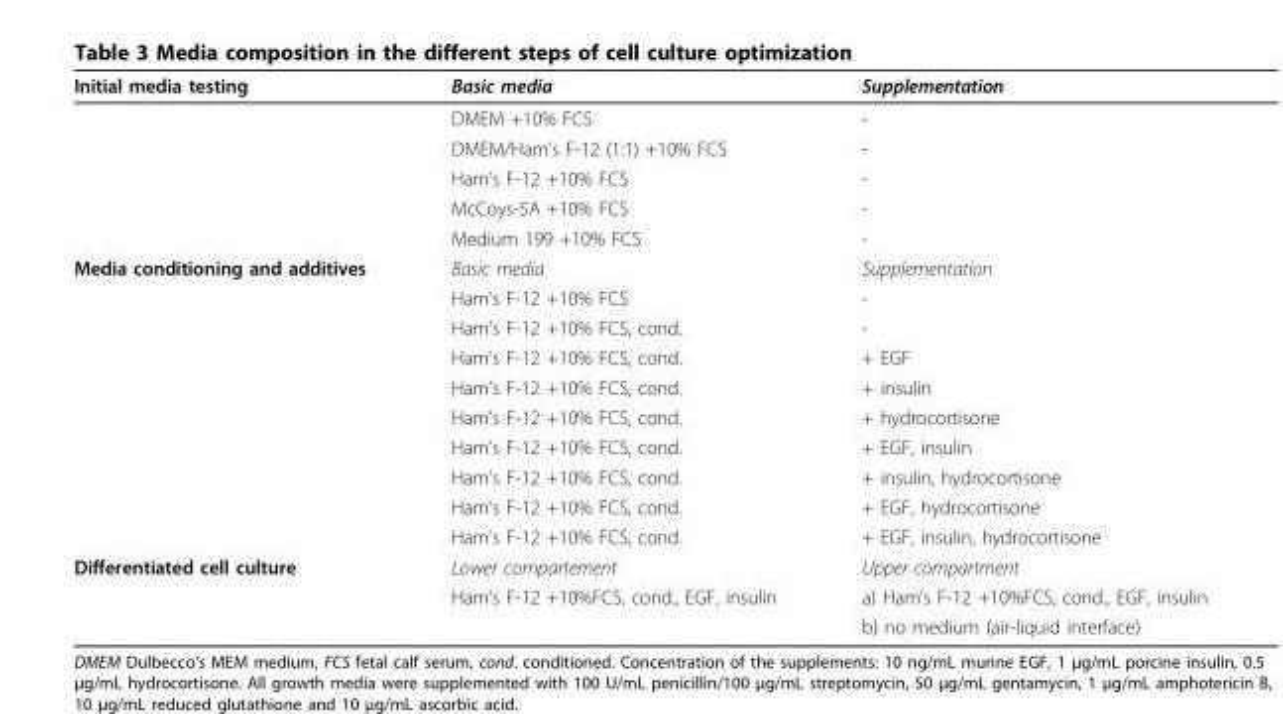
<table><thead><tr><td>Initial media testing</td><td>Basic media</td><td>Supplementation</td></tr></thead><tbody><tr><td></td><td>DMEM +10% FCS</td><td>-</td></tr><tr><td></td><td>DMEM/Ham’s F-12 (1:1) +10% FCS</td><td>-</td></tr><tr><td></td><td>Ham’s F-12 +10% FCS</td><td>-</td></tr><tr><td></td><td>McCoys-5A +10% FCS</td><td>-</td></tr><tr><td></td><td>Medium 199 +10% FCS</td><td>-</td></tr><tr><td rowspan="10">Media conditioning and additives</td><td>Basic media</td><td>Supplementation</td></tr><tr><td>Ham’s F-12 +10% FCS</td><td>-</td></tr><tr><td>Ham’s F-12 +10% FCS, cond.</td><td>-</td></tr><tr><td>Ham’s F-12 +10% FCS, cond.</td><td>+ EGF</td></tr><tr><td>Ham’s F-12 +10% FCS, cond.</td><td>+ insulin</td></tr><tr><td>Ham’s F-12 +10% FCS, cond.</td><td>+ hydrocortisone</td></tr><tr><td>Ham’s F-12 +10% FCS, cond.</td><td>+ EGF, insulin</td></tr><tr><td>Ham’s F-12 +10% FCS, cond.</td><td>+ insulin, hydrocortisone</td></tr><tr><td>Ham’s F-12 +10% FCS, cond.</td><td>+ EGF, hydrocortisone</td></tr><tr><td>Ham’s F-12 +10% FCS, cond.</td><td>+ EGF, insulin, hydrocortisone</td></tr><tr><td rowspan="3">Differentiated cell culture</td><td>Lower compartement</td><td>Upper compartment</td></tr><tr><td>Ham’s F-12 +10%FCS, cond., EGF, insulin</td><td>a) Ham’s F-12 +10%FCS, cond., EGF, insulin</td></tr><tr><td></td><td>b) no medium (air-liquid interface)</td></tr></tbody></table>